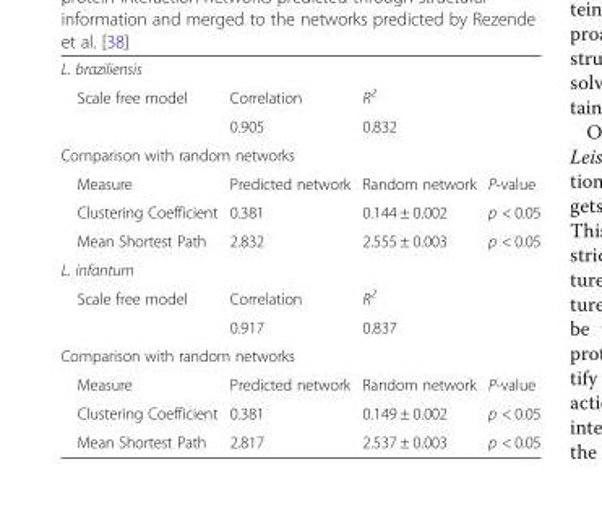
<table><tbody><tr><td colspan="4">L. braziliensis</td></tr><tr><td rowspan="2">Scale free model</td><td>Correlation</td><td colspan="2">R<sup>2</sup></td></tr><tr><td>0.905</td><td colspan="2">0.832</td></tr><tr><td colspan="4">Comparison with random networks</td></tr><tr><td>Measure</td><td>Predicted network</td><td>Random network</td><td>P-value</td></tr><tr><td>Clustering Coefficient</td><td>0.381</td><td>0.144 ± 0.002</td><td>p &lt; 0.05</td></tr><tr><td>Mean Shortest Path</td><td>2.832</td><td>2.555 ± 0.003</td><td>p &lt; 0.05</td></tr><tr><td colspan="4">L. infantum</td></tr><tr><td rowspan="2">Scale free model</td><td>Correlation</td><td colspan="2">R<sup>2</sup></td></tr><tr><td>0.917</td><td colspan="2">0.837</td></tr><tr><td colspan="4">Comparison with random networks</td></tr><tr><td>Measure</td><td>Predicted network</td><td>Random network</td><td>P-value</td></tr><tr><td>Clustering Coefficient</td><td>0.381</td><td>0.149 ± 0.002</td><td>p &lt; 0.05</td></tr><tr><td>Mean Shortest Path</td><td>2.817</td><td>2.537 ± 0.003</td><td>p &lt; 0.05</td></tr></tbody></table>